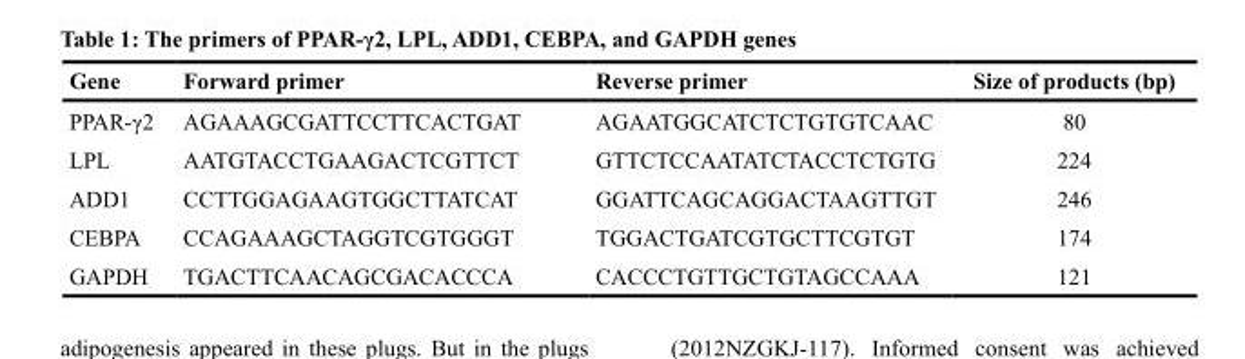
<table><thead><tr><td>Gene</td><td>Forward primer</td><td>Reverse primer</td><td>Size of products (bp)</td></tr></thead><tbody><tr><td>PPAR-γ2</td><td>AGAAAGCGATTCCTTCACTGAT</td><td>AGAATGGCATCTCTGTGTCAAC</td><td>80</td></tr><tr><td>LPL</td><td>AATGTACCTGAAGACTCGTTCT</td><td>GTTCTCCAATATCTACCTCTGTG</td><td>224</td></tr><tr><td>ADD1</td><td>CCTTGGAGAAGTGGCTTATCAT</td><td>GGATTCAGCAGGACTAAGTTGT</td><td>246</td></tr><tr><td>CEBPA</td><td>CCAGAAAGCTAGGTCGTGGGT</td><td>TGGACTGATCGTGCTTCGTGT</td><td>174</td></tr><tr><td>GAPDH</td><td>TGACTTCAACAGCGACACCCA</td><td>CACCCTGTTGCTGTAGCCAAA</td><td>121</td></tr></tbody></table>